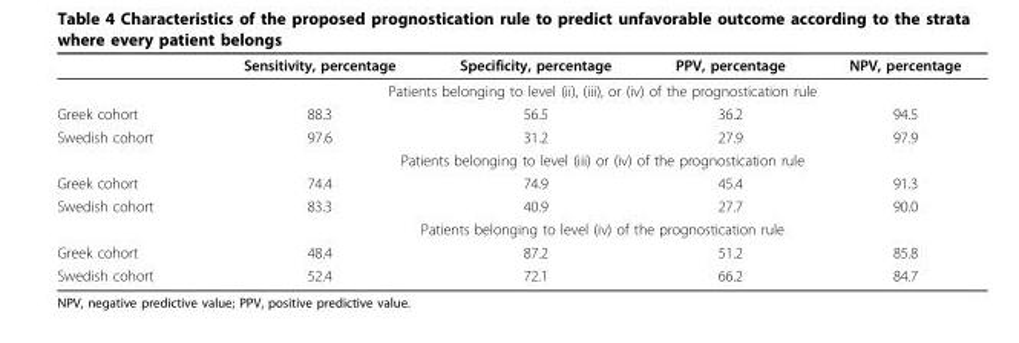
<table><thead><tr><td></td><td>Sensitivity, percentage</td><td>Specificity, percentage</td><td>PPV, percentage</td><td>NPV, percentage</td></tr></thead><tbody><tr><td></td><td colspan="4">Patients belonging to level (ii), (iii), or (iv) of the prognostication rule</td></tr><tr><td>Greek cohort</td><td>88.3</td><td>56.5</td><td>36.2</td><td>94.5</td></tr><tr><td rowspan="2">Swedish cohort</td><td>97.6</td><td>31.2</td><td>27.9</td><td>97.9</td></tr><tr><td colspan="4">Patients belonging to level (iii) or (iv) of the prognostication rule</td></tr><tr><td>Greek cohort</td><td>74.4</td><td>74.9</td><td>45.4</td><td>91.3</td></tr><tr><td rowspan="2">Swedish cohort</td><td>83.3</td><td>40.9</td><td>27.7</td><td>90.0</td></tr><tr><td colspan="4">Patients belonging to level (iv) of the prognostication rule</td></tr><tr><td>Greek cohort</td><td>48.4</td><td>87.2</td><td>51.2</td><td>85.8</td></tr><tr><td>Swedish cohort</td><td>52.4</td><td>72.1</td><td>66.2</td><td>84.7</td></tr></tbody></table>